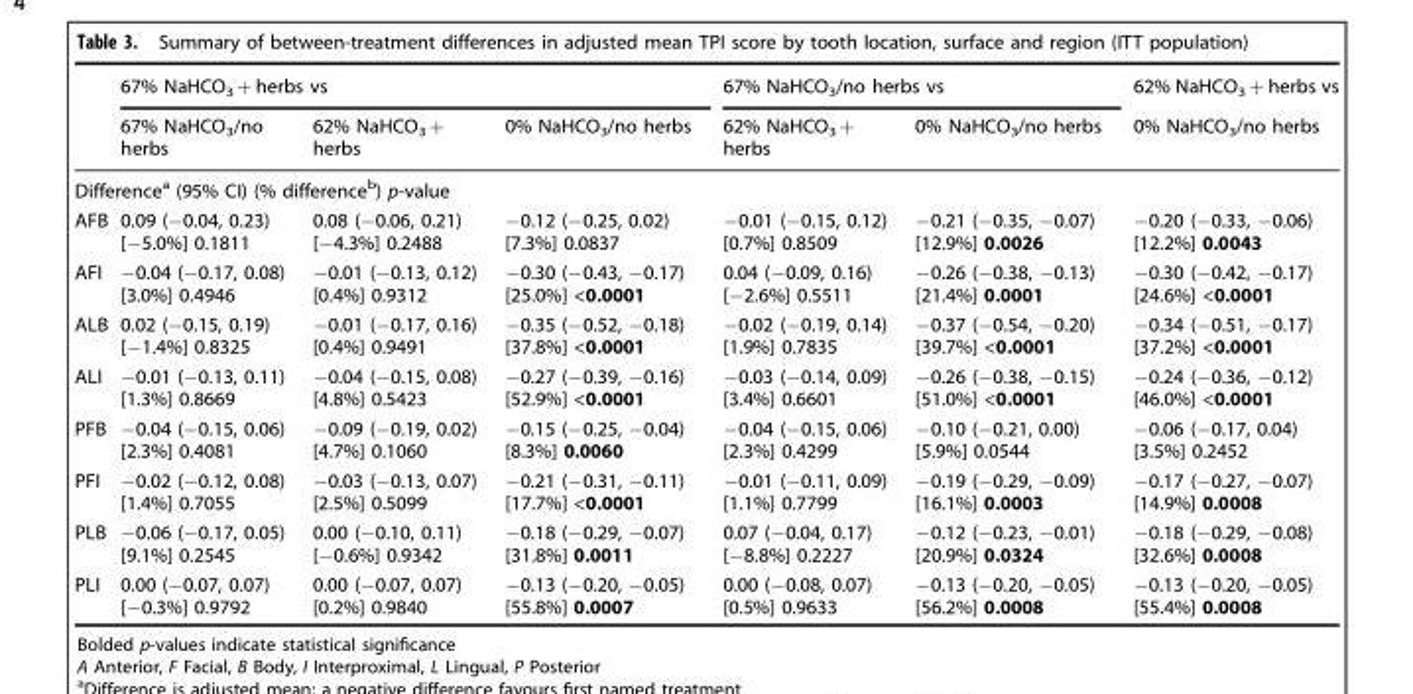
<table><thead><tr><td rowspan="2"></td><td colspan="3">67% NaHCO<sub>3</sub> + herbs vs</td><td colspan="2">67% NaHCO<sub>3</sub>/no herbs vs</td><td rowspan="2">62% NaHCO<sub>3</sub> + herbs vs 0% NaHCO<sub>3</sub>/no herbs</td></tr><tr><td>67% NaHCO<sub>3</sub>/no herbs</td><td>62% NaHCO<sub>3</sub> + herbs</td><td>0% NaHCO<sub>3</sub>/no herbs</td><td>62% NaHCO<sub>3</sub>+ herbs</td><td>0% NaHCO<sub>3</sub>/no herbs</td></tr></thead><tbody><tr><td colspan="7">Difference<sup>a</sup> (95% CI) (% difference<sup>b</sup>) p-value</td></tr><tr><td>AFB</td><td>0.09 (−0.04, 0.23) [−5.0%] 0.1811</td><td>0.08 (−0.06, 0.21) [−4.3%] 0.2488</td><td>−0.12 (−0.25, 0.02) [7.3%] 0.0837</td><td>−0.01 (−0.15, 0.12) [0.7%] 0.8509</td><td>−0.21 (−0.35, −0.07) [12.9%] 0.0026</td><td>−0.20 (−0.33, −0.06) [12.2%] 0.0043</td></tr><tr><td>AFI</td><td>−0.04 (−0.17, 0.08) [3.0%] 0.4946</td><td>−0.01 (−0.13, 0.12) [0.4%] 0.9312</td><td>−0.30 (−0.43, −0.17) [25.0%] &lt;0.0001</td><td>0.04 (−0.09, 0.16) [−2.6%] 0.5511</td><td>−0.26 (−0.38, −0.13) [21.4%] 0.0001</td><td>−0.30 (−0.42, −0.17) [24.6%] &lt;0.0001</td></tr><tr><td>ALB</td><td>0.02 (−0.15, 0.19) [−1.4%] 0.8325</td><td>−0.01 (−0.17, 0.16) [0.4%] 0.9491</td><td>−0.35 (−0.52, −0.18) [37.8%] &lt;0.0001</td><td>−0.02 (−0.19, 0.14) [1.9%] 0.7835</td><td>−0.37 (−0.54, −0.20) [39.7%] &lt;0.0001</td><td>−0.34 (−0.51, −0.17) [37.2%] &lt;0.0001</td></tr><tr><td>ALI</td><td>−0.01 (−0.13, 0.11) [1.3%] 0.8669</td><td>−0.04 (−0.15, 0.08) [4.8%] 0.5423</td><td>−0.27 (−0.39, −0.16) [52.9%] &lt;0.0001</td><td>−0.03 (−0.14, 0.09) [3.4%] 0.6601</td><td>−0.26 (−0.38, −0.15) [51.0%] &lt;0.0001</td><td>−0.24 (−0.36, −0.12) [46.0%] &lt;0.0001</td></tr><tr><td>PFB</td><td>−0.04 (−0.15, 0.06) [2.3%] 0.4081</td><td>−0.09 (−0.19, 0.02) [4.7%] 0.1060</td><td>−0.15 (−0.25, −0.04) [8.3%] 0.0060</td><td>−0.04 (−0.15, 0.06) [2.3%] 0.4299</td><td>−0.10 (−0.21, 0.00) [5.9%] 0.0544</td><td>−0.06 (−0.17, 0.04) [3.5%] 0.2452</td></tr><tr><td>PFI</td><td>−0.02 (−0.12, 0.08) [1.4%] 0.7055</td><td>−0.03 (−0.13, 0.07) [2.5%] 0.5099</td><td>−0.21 (−0.31, −0.11) [17.7%] &lt;0.0001</td><td>−0.01 (−0.11, 0.09) [1.1%] 0.7799</td><td>−0.19 (−0.29, −0.09) [16.1%] 0.0003</td><td>−0.17 (−0.27, −0.07) [14.9%] 0.0008</td></tr><tr><td>PLB</td><td>−0.06 (−0.17, 0.05) [9.1%] 0.2545</td><td>0.00 (−0.10, 0.11) [−0.6%] 0.9342</td><td>−0.18 (−0.29, −0.07) [31.8%] 0.0011</td><td>0.07 (−0.04, 0.17) [−8.8%] 0.2227</td><td>−0.12 (−0.23, −0.01) [20.9%] 0.0324</td><td>−0.18 (−0.29, −0.08) [32.6%] 0.0008</td></tr><tr><td>PLI</td><td>0.00 (−0.07, 0.07) [−0.3%] 0.9792</td><td>0.00 (−0.07, 0.07) [0.2%] 0.9840</td><td>−0.13 (−0.20, −0.05) [55.8%] 0.0007</td><td>0.00 (−0.08, 0.07) [0.5%] 0.9633</td><td>−0.13 (−0.20, −0.05) [56.2%] 0.0008</td><td>−0.13 (−0.20, −0.05) [55.4%] 0.0008</td></tr></tbody></table>